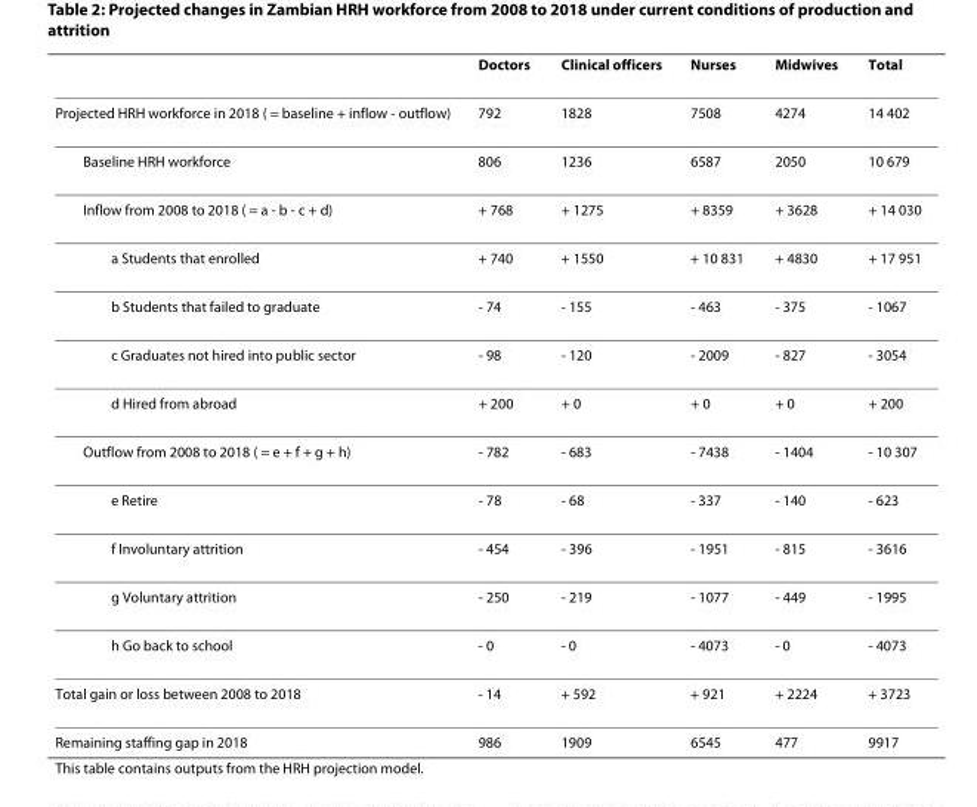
<table><thead><tr><td></td><td>Doctors</td><td>Clinical officers</td><td>Nurses</td><td>Midwives</td><td>Total</td></tr></thead><tbody><tr><td>Projected HRH workforce in 2018 ( = baseline + inflow - outflow)</td><td>792</td><td>1828</td><td>7508</td><td>4274</td><td>14 402</td></tr><tr><td>Baseline HRH workforce</td><td>806</td><td>1236</td><td>6587</td><td>2050</td><td>10 679</td></tr><tr><td>Inflow from 2008 to 2018 ( = a - b - c + d)</td><td>+ 768</td><td>+ 1275</td><td>+ 8359</td><td>+ 3628</td><td>+ 14 030</td></tr><tr><td>a Students that enrolled</td><td>+ 740</td><td>+ 1550</td><td>+ 10 831</td><td>+ 4830</td><td>+ 17 951</td></tr><tr><td>b Students that failed to graduate</td><td>- 74</td><td>- 155</td><td>- 463</td><td>- 375</td><td>- 1067</td></tr><tr><td>c Graduates not hired into public sector</td><td>- 98</td><td>- 120</td><td>- 2009</td><td>- 827</td><td>- 3054</td></tr><tr><td>d Hired from abroad</td><td>+ 200</td><td>+ 0</td><td>+ 0</td><td>+ 0</td><td>+ 200</td></tr><tr><td>Outflow from 2008 to 2018 ( = e + f + g + h)</td><td>- 782</td><td>- 683</td><td>- 7438</td><td>- 1404</td><td>- 10 307</td></tr><tr><td>e Retire</td><td>- 78</td><td>- 68</td><td>- 337</td><td>- 140</td><td>- 623</td></tr><tr><td>f Involuntary attrition</td><td>- 454</td><td>- 396</td><td>- 1951</td><td>- 815</td><td>- 3616</td></tr><tr><td>g Voluntary attrition</td><td>- 250</td><td>- 219</td><td>- 1077</td><td>- 449</td><td>- 1995</td></tr><tr><td>h Go back to school</td><td>- 0</td><td>- 0</td><td>- 4073</td><td>- 0</td><td>- 4073</td></tr><tr><td>Total gain or loss between 2008 to 2018</td><td>- 14</td><td>+ 592</td><td>+ 921</td><td>+ 2224</td><td>+ 3723</td></tr><tr><td>Remaining staffing gap in 2018</td><td>986</td><td>1909</td><td>6545</td><td>477</td><td>9917</td></tr></tbody></table>